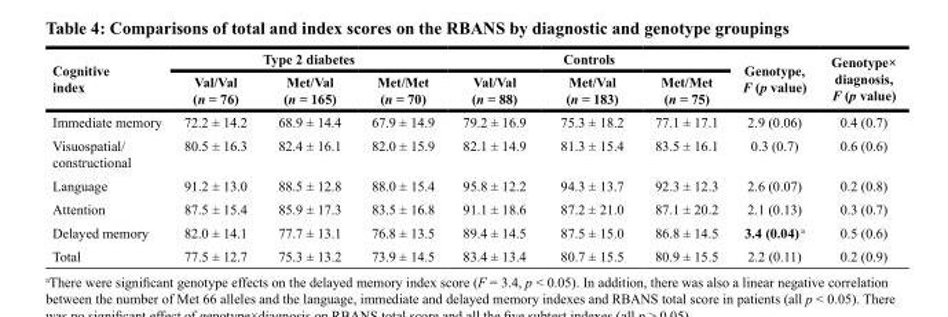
<table><thead><tr><td rowspan="2">Cognitive index</td><td colspan="3">Type 2 diabetes</td><td colspan="3">Controls</td><td rowspan="2">Genotype, F (p value)</td><td rowspan="2">Genotype× diagnosis, F (p value)</td></tr><tr><td>Val/Val (n = 76)</td><td>Met/Val (n = 165)</td><td>Met/Met (n = 70)</td><td>Val/Val (n = 88)</td><td>Met/Val (n = 183)</td><td>Met/Met (n = 75)</td></tr></thead><tbody><tr><td>Immediate memory</td><td>72.2 ± 14.2</td><td>68.9 ± 14.4</td><td>67.9 ± 14.9</td><td>79.2 ± 16.9</td><td>75.3 ± 18.2</td><td>77.1 ± 17.1</td><td>2.9 (0.06)</td><td>0.4 (0.7)</td></tr><tr><td>Visuospatial/ constructional</td><td>80.5 ± 16.3</td><td>82.4 ± 16.1</td><td>82.0 ± 15.9</td><td>82.1 ± 14.9</td><td>81.3 ± 15.4</td><td>83.5 ± 16.1</td><td>0.3 (0.7)</td><td>0.6 (0.6)</td></tr><tr><td>Language</td><td>91.2 ± 13.0</td><td>88.5 ± 12.8</td><td>88.0 ± 15.4</td><td>95.8 ± 12.2</td><td>94.3 ± 13.7</td><td>92.3 ± 12.3</td><td>2.6 (0.07)</td><td>0.2 (0.8)</td></tr><tr><td>Attention</td><td>87.5 ± 15.4</td><td>85.9 ± 17.3</td><td>83.5 ± 16.8</td><td>91.1 ± 18.6</td><td>87.2 ± 21.0</td><td>87.1 ± 20.2</td><td>2.1 (0.13)</td><td>0.3 (0.7)</td></tr><tr><td>Delayed memory</td><td>82.0 ± 14.1</td><td>77.7 ± 13.1</td><td>76.8 ± 13.5</td><td>89.4 ± 14.5</td><td>87.5 ± 15.0</td><td>86.8 ± 14.5</td><td>3.4 (0.04) <sup>a</sup></td><td>0.5 (0.6)</td></tr><tr><td>Total</td><td>77.5 ± 12.7</td><td>75.3 ± 13.2</td><td>73.9 ± 14.5</td><td>83.4 ± 13.4</td><td>80.7 ± 15.5</td><td>80.9 ± 15.5</td><td>2.2 (0.11)</td><td>0.2 (0.9)</td></tr></tbody></table>